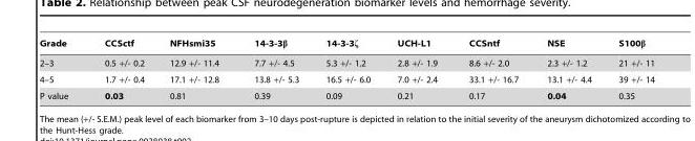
<table><thead><tr><td>Grade</td><td>CCSctf</td><td>NFHsmi35</td><td>14-3-3β</td><td>14-3-3ζ</td><td>UCH-L1</td><td>CCSntf</td><td>NSE</td><td>S100β</td></tr></thead><tbody><tr><td>2–3</td><td>0.5 +/- 0.2</td><td>12.9 +/- 11.4</td><td>7.7 +/- 4.5</td><td>5.3 +/- 1.2</td><td>2.8 +/- 1.9</td><td>8.6 +/- 2.0</td><td>2.3 +/- 1.2</td><td>21 +/- 11</td></tr><tr><td>4–5</td><td>1.7 +/- 0.4</td><td>17.1 +/- 12.8</td><td>13.8 +/- 5.3</td><td>16.5 +/- 6.0</td><td>7.0 +/- 2.4</td><td>33.1 +/- 16.7</td><td>13.1 +/- 4.4</td><td>39 +/- 14</td></tr><tr><td>P value</td><td>0.03</td><td>0.81</td><td>0.39</td><td>0.09</td><td>0.21</td><td>0.17</td><td>0.04</td><td>0.35</td></tr></tbody></table>